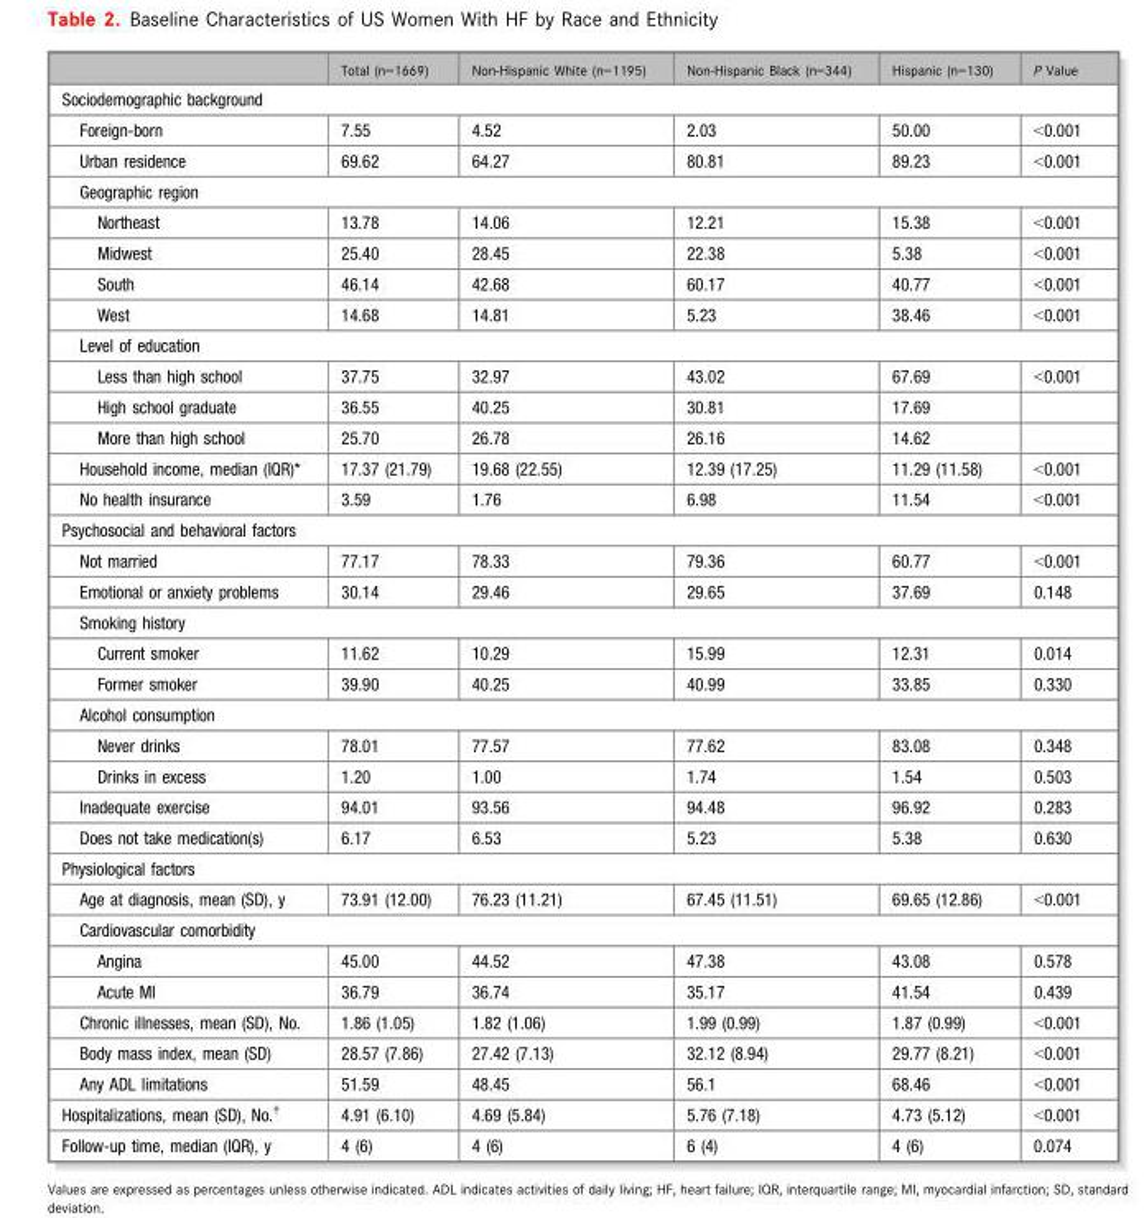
<table><thead><tr><td></td><td>Total (n=1669)</td><td>Non-Hispanic White (n=1195)</td><td>Non-Hispanic Black (n=344)</td><td>Hispanic (n=130)</td><td>P Value</td></tr></thead><tbody><tr><td colspan="6">Sociodemographic background</td></tr><tr><td>Foreign-born</td><td>7.55</td><td>4.52</td><td>2.03</td><td>50.00</td><td>&lt;0.001</td></tr><tr><td>Urban residence</td><td>69.62</td><td>64.27</td><td>80.81</td><td>89.23</td><td>&lt;0.001</td></tr><tr><td colspan="6">Geographic region</td></tr><tr><td>Northeast</td><td>13.78</td><td>14.06</td><td>12.21</td><td>15.38</td><td>&lt;0.001</td></tr><tr><td>Midwest</td><td>25.40</td><td>28.45</td><td>22.38</td><td>5.38</td><td>&lt;0.001</td></tr><tr><td>South</td><td>46.14</td><td>42.68</td><td>60.17</td><td>40.77</td><td>&lt;0.001</td></tr><tr><td>West</td><td>14.68</td><td>14.81</td><td>5.23</td><td>38.46</td><td>&lt;0.001</td></tr><tr><td colspan="6">Level of education</td></tr><tr><td>Less than high school</td><td>37.75</td><td>32.97</td><td>43.02</td><td>67.69</td><td>&lt;0.001</td></tr><tr><td>High school graduate</td><td>36.55</td><td>40.25</td><td>30.81</td><td>17.69</td><td></td></tr><tr><td>More than high school</td><td>25.70</td><td>26.78</td><td>26.16</td><td>14.62</td><td></td></tr><tr><td>Household income, median (IQR)*</td><td>17.37 (21.79)</td><td>19.68 (22.55)</td><td>12.39 (17.25)</td><td>11.29 (11.58)</td><td>&lt;0.001</td></tr><tr><td>No health insurance</td><td>3.59</td><td>1.76</td><td>6.98</td><td>11.54</td><td>&lt;0.001</td></tr><tr><td colspan="6">Psychosocial and behavioral factors</td></tr><tr><td>Not married</td><td>77.17</td><td>78.33</td><td>79.36</td><td>60.77</td><td>&lt;0.001</td></tr><tr><td>Emotional or anxiety problems</td><td>30.14</td><td>29.46</td><td>29.65</td><td>37.69</td><td>0.148</td></tr><tr><td colspan="6">Smoking history</td></tr><tr><td>Current smoker</td><td>11.62</td><td>10.29</td><td>15.99</td><td>12.31</td><td>0.014</td></tr><tr><td>Former smoker</td><td>39.90</td><td>40.25</td><td>40.99</td><td>33.85</td><td>0.330</td></tr><tr><td colspan="6">Alcohol consumption</td></tr><tr><td>Never drinks</td><td>78.01</td><td>77.57</td><td>77.62</td><td>83.08</td><td>0.348</td></tr><tr><td>Drinks in excess</td><td>1.20</td><td>1.00</td><td>1.74</td><td>1.54</td><td>0.503</td></tr><tr><td>Inadequate exercise</td><td>94.01</td><td>93.56</td><td>94.48</td><td>96.92</td><td>0.283</td></tr><tr><td>Does not take medication(s)</td><td>6.17</td><td>6.53</td><td>5.23</td><td>5.38</td><td>0.630</td></tr><tr><td colspan="6">Physiological factors</td></tr><tr><td>Age at diagnosis, mean (SD), y</td><td>73.91 (12.00)</td><td>76.23 (11.21)</td><td>67.45 (11.51)</td><td>69.65 (12.86)</td><td>&lt;0.001</td></tr><tr><td colspan="6">Cardiovascular comorbidity</td></tr><tr><td>Angina</td><td>45.00</td><td>44.52</td><td>47.38</td><td>43.08</td><td>0.578</td></tr><tr><td>Acute MI</td><td>36.79</td><td>36.74</td><td>35.17</td><td>41.54</td><td>0.439</td></tr><tr><td>Chronic illnesses, mean (SD), No.</td><td>1.86 (1.05)</td><td>1.82 (1.06)</td><td>1.99 (0.99)</td><td>1.87 (0.99)</td><td>&lt;0.001</td></tr><tr><td>Body mass index, mean (SD)</td><td>28.57 (7.86)</td><td>27.42 (7.13)</td><td>32.12 (8.94)</td><td>29.77 (8.21)</td><td>&lt;0.001</td></tr><tr><td>Any ADL limitations</td><td>51.59</td><td>48.45</td><td>56.1</td><td>68.46</td><td>&lt;0.001</td></tr><tr><td>Hospitalizations, mean (SD), No.†</td><td>4.91 (6.10)</td><td>4.69 (5.84)</td><td>5.76 (7.18)</td><td>4.73 (5.12)</td><td>&lt;0.001</td></tr><tr><td>Follow-up time, median (IQR), y</td><td>4 (6)</td><td>4 (6)</td><td>6 (4)</td><td>4 (6)</td><td>0.074</td></tr></tbody></table>